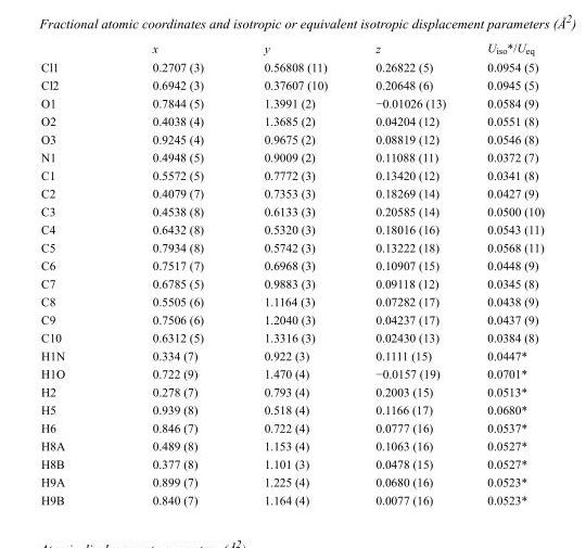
<table><thead><tr><td></td><td>x</td><td>y</td><td>z</td><td>U<sub>iso</sub>*/U<sub>eq</sub></td></tr></thead><tbody><tr><td>Cl1</td><td>0.2707 (3)</td><td>0.56808 (11)</td><td>0.26822 (5)</td><td>0.0954 (5)</td></tr><tr><td>Cl2</td><td>0.6942 (3)</td><td>0.37607 (10)</td><td>0.20648 (6)</td><td>0.0945 (5)</td></tr><tr><td>O1</td><td>0.7844 (5)</td><td>1.3991 (2)</td><td>−0.01026 (13)</td><td>0.0584 (9)</td></tr><tr><td>O2</td><td>0.4038 (4)</td><td>1.3685 (2)</td><td>0.04204 (12)</td><td>0.0551 (8)</td></tr><tr><td>O3</td><td>0.9245 (4)</td><td>0.9675 (2)</td><td>0.08819 (12)</td><td>0.0546 (8)</td></tr><tr><td>N1</td><td>0.4948 (5)</td><td>0.9009 (2)</td><td>0.11088 (11)</td><td>0.0372 (7)</td></tr><tr><td>C1</td><td>0.5572 (5)</td><td>0.7772 (3)</td><td>0.13420 (12)</td><td>0.0341 (8)</td></tr><tr><td>C2</td><td>0.4079 (7)</td><td>0.7353 (3)</td><td>0.18269 (14)</td><td>0.0427 (9)</td></tr><tr><td>C3</td><td>0.4538 (8)</td><td>0.6133 (3)</td><td>0.20585 (14)</td><td>0.0500 (10)</td></tr><tr><td>C4</td><td>0.6432 (8)</td><td>0.5320 (3)</td><td>0.18016 (16)</td><td>0.0543 (11)</td></tr><tr><td>C5</td><td>0.7934 (8)</td><td>0.5742 (3)</td><td>0.13222 (18)</td><td>0.0568 (11)</td></tr><tr><td>C6</td><td>0.7517 (7)</td><td>0.6968 (3)</td><td>0.10907 (15)</td><td>0.0448 (9)</td></tr><tr><td>C7</td><td>0.6785 (5)</td><td>0.9883 (3)</td><td>0.09118 (12)</td><td>0.0345 (8)</td></tr><tr><td>C8</td><td>0.5505 (6)</td><td>1.1164 (3)</td><td>0.07282 (17)</td><td>0.0438 (9)</td></tr><tr><td>C9</td><td>0.7506 (6)</td><td>1.2040 (3)</td><td>0.04237 (17)</td><td>0.0437 (9)</td></tr><tr><td>C10</td><td>0.6312 (5)</td><td>1.3316 (3)</td><td>0.02430 (13)</td><td>0.0384 (8)</td></tr><tr><td>H1N</td><td>0.334 (7)</td><td>0.922 (3)</td><td>0.1111 (15)</td><td>0.0447*</td></tr><tr><td>H1O</td><td>0.722 (9)</td><td>1.470 (4)</td><td>−0.0157 (19)</td><td>0.0701*</td></tr><tr><td>H2</td><td>0.278 (7)</td><td>0.793 (4)</td><td>0.2003 (15)</td><td>0.0513*</td></tr><tr><td>H5</td><td>0.939 (8)</td><td>0.518 (4)</td><td>0.1166 (17)</td><td>0.0680*</td></tr><tr><td>H6</td><td>0.846 (7)</td><td>0.722 (4)</td><td>0.0777 (16)</td><td>0.0537*</td></tr><tr><td>H8A</td><td>0.489 (8)</td><td>1.153 (4)</td><td>0.1063 (16)</td><td>0.0527*</td></tr><tr><td>H8B</td><td>0.377 (8)</td><td>1.101 (3)</td><td>0.0478 (15)</td><td>0.0527*</td></tr><tr><td>H9A</td><td>0.899 (7)</td><td>1.225 (4)</td><td>0.0680 (16)</td><td>0.0523*</td></tr><tr><td>H9B</td><td>0.840 (7)</td><td>1.164 (4)</td><td>0.0077 (16)</td><td>0.0523*</td></tr></tbody></table>